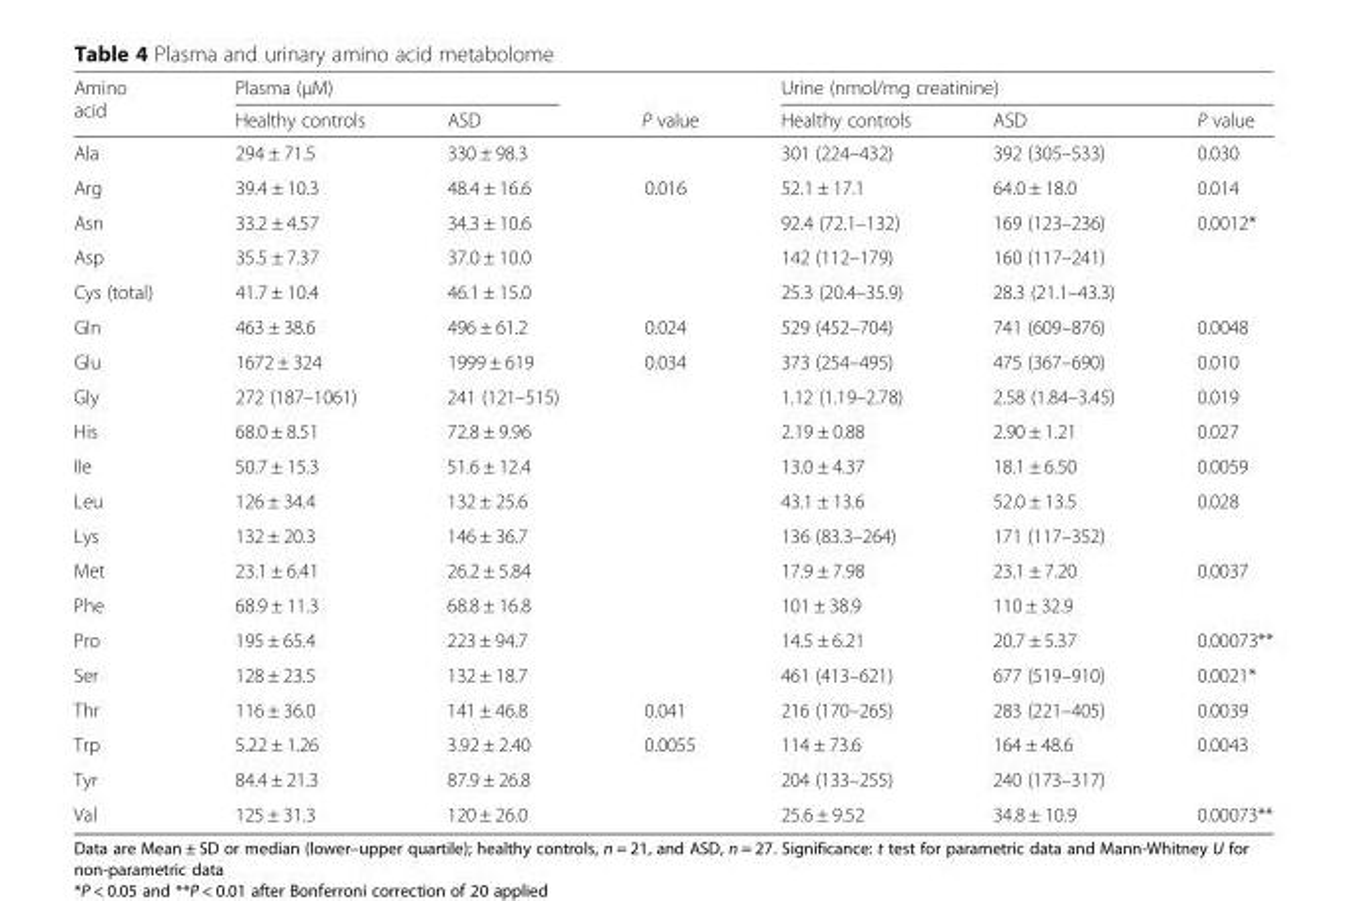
<table><thead><tr><td rowspan="2">Amino acid</td><td colspan="2">Plasma (μM)</td><td rowspan="2">P value</td><td colspan="3">Urine (nmol/mg creatinine)</td></tr><tr><td>Healthy controls</td><td>ASD</td><td>Healthy controls</td><td>ASD</td><td>P value</td></tr></thead><tbody><tr><td>Ala</td><td>294 ± 71.5</td><td>330 ± 98.3</td><td></td><td>301 (224–432)</td><td>392 (305–533)</td><td>0.030</td></tr><tr><td>Arg</td><td>39.4 ± 10.3</td><td>48.4 ± 16.6</td><td>0.016</td><td>52.1 ± 17.1</td><td>64.0 ± 18.0</td><td>0.014</td></tr><tr><td>Asn</td><td>33.2 ± 4.57</td><td>34.3 ± 10.6</td><td></td><td>92.4 (72.1–132)</td><td>169 (123–236)</td><td>0.0012*</td></tr><tr><td>Asp</td><td>35.5 ± 7.37</td><td>37.0 ± 10.0</td><td></td><td>142 (112–179)</td><td>160 (117–241)</td><td></td></tr><tr><td>Cys (total)</td><td>41.7 ± 10.4</td><td>46.1 ± 15.0</td><td></td><td>25.3 (20.4–35.9)</td><td>28.3 (21.1–43.3)</td><td></td></tr><tr><td>Gln</td><td>463 ± 38.6</td><td>496 ± 61.2</td><td>0.024</td><td>529 (452–704)</td><td>741 (609–876)</td><td>0.0048</td></tr><tr><td>Glu</td><td>1672 ± 324</td><td>1999 ± 619</td><td>0.034</td><td>373 (254–495)</td><td>475 (367–690)</td><td>0.010</td></tr><tr><td>Gly</td><td>272 (187–1061)</td><td>241 (121–515)</td><td></td><td>1.12 (1.19–2.78)</td><td>2.58 (1.84–3.45)</td><td>0.019</td></tr><tr><td>His</td><td>68.0 ± 8.51</td><td>72.8 ± 9.96</td><td></td><td>2.19 ± 0.88</td><td>2.90 ± 1.21</td><td>0.027</td></tr><tr><td>IIe</td><td>50.7 ± 15.3</td><td>51.6 ± 12.4</td><td></td><td>13.0 ± 4.37</td><td>18.1 ± 6.50</td><td>0.0059</td></tr><tr><td>Leu</td><td>126 ± 34.4</td><td>132 ± 25.6</td><td></td><td>43.1 ± 13.6</td><td>52.0 ± 13.5</td><td>0.028</td></tr><tr><td>Lys</td><td>132 ± 20.3</td><td>146 ± 36.7</td><td></td><td>136 (83.3–264)</td><td>171 (117–352)</td><td></td></tr><tr><td>Met</td><td>23.1 ± 6.41</td><td>26.2 ± 5.84</td><td></td><td>17.9 ± 7.98</td><td>23.1 ± 7.20</td><td>0.0037</td></tr><tr><td>Phe</td><td>68.9 ± 11.3</td><td>68.8 ± 16.8</td><td></td><td>101 ± 38.9</td><td>110 ± 32.9</td><td></td></tr><tr><td>Pro</td><td>195 ± 65.4</td><td>223 ± 94.7</td><td></td><td>14.5 ± 6.21</td><td>20.7 ± 5.37</td><td>0.00073**</td></tr><tr><td>Ser</td><td>128 ± 23.5</td><td>132 ± 18.7</td><td></td><td>461 (413–621)</td><td>677 (519–910)</td><td>0.0021*</td></tr><tr><td>Thr</td><td>116 ± 36.0</td><td>141 ± 46.8</td><td>0.041</td><td>216 (170–265)</td><td>283 (221–405)</td><td>0.0039</td></tr><tr><td>Trp</td><td>5.22 ± 1.26</td><td>3.92 ± 2.40</td><td>0.0055</td><td>114 ± 73.6</td><td>164 ± 48.6</td><td>0.0043</td></tr><tr><td>Tyr</td><td>84.4 ± 21.3</td><td>87.9 ± 26.8</td><td></td><td>204 (133–255)</td><td>240 (173–317)</td><td></td></tr><tr><td>Val</td><td>125 ± 31.3</td><td>120 ± 26.0</td><td></td><td>25.6 ± 9.52</td><td>34.8 ± 10.9</td><td>0.00073**</td></tr></tbody></table>